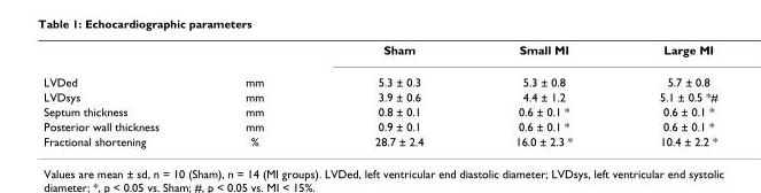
<table><thead><tr><td></td><td></td><td>Sham</td><td>Small MI</td><td>Large MI</td></tr></thead><tbody><tr><td>LVDed</td><td>mm</td><td>5.3 ± 0.3</td><td>5.3 ± 0.8</td><td>5.7 ± 0.8</td></tr><tr><td>LVDsys</td><td>mm</td><td>3.9 ± 0.6</td><td>4.4 ± 1.2</td><td>5.1 ± 0.5 *#</td></tr><tr><td>Septum thickness</td><td>mm</td><td>0.8 ± 0.1</td><td>0.6 ± 0.1 *</td><td>0.6 ± 0.1 *</td></tr><tr><td>Posterior wall thickness</td><td>mm</td><td>0.9 ± 0.1</td><td>0.6 ± 0.1 *</td><td>0.6 ± 0.1 *</td></tr><tr><td>Fractional shortening</td><td>%</td><td>28.7 ± 2.4</td><td>16.0 ± 2.3 *</td><td>10.4 ± 2.2 *</td></tr></tbody></table>